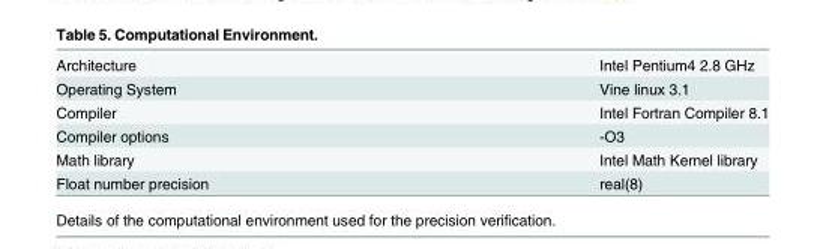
<table><tbody><tr><td>Architecture</td><td>Intel Pentium4 2.8 GHz</td></tr><tr><td>Operating System</td><td>Vine linux 3.1</td></tr><tr><td>Compiler</td><td>Intel Fortran Compiler 8.1</td></tr><tr><td>Compiler options</td><td>-O3</td></tr><tr><td>Math library</td><td>Intel Math Kernel library</td></tr><tr><td>Float number precision</td><td>real(8)</td></tr></tbody></table>